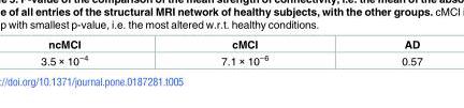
<table><thead><tr><td>ncMCI</td><td>cMCI</td><td>AD</td></tr></thead><tbody><tr><td>3.5 × 10<sup>−4</sup></td><td>7.1 × 10<sup>−6</sup></td><td>0.57</td></tr></tbody></table>